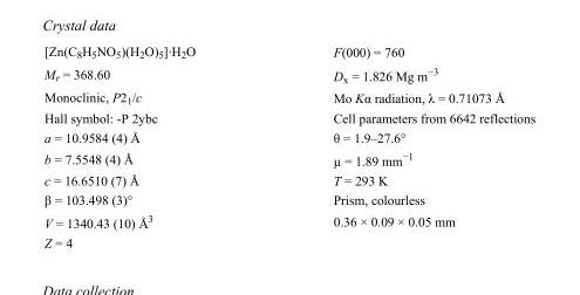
<table><tbody><tr><td>[Zn(C<sub>8</sub>H<sub>5</sub>NO<sub>5</sub>)(H<sub>2</sub>O)<sub>5</sub>]·H<sub>2</sub>O</td><td>F(000) = 760</td></tr><tr><td>M<sub>r</sub> = 368.60</td><td>D<sub>x</sub> = 1.826 Mg m<sup>−3</sup></td></tr><tr><td>Monoclinic, P2<sub>1</sub>/c</td><td>Mo Kα radiation, λ = 0.71073 Å</td></tr><tr><td>Hall symbol: -P 2ybc</td><td>Cell parameters from 6642 reflections</td></tr><tr><td>a = 10.9584 (4) Å</td><td>θ = 1.9–27.6°</td></tr><tr><td>b = 7.5548 (4) Å</td><td>µ = 1.89 mm<sup>−1</sup></td></tr><tr><td>c = 16.6510 (7) Å</td><td>T = 293 K</td></tr><tr><td>β = 103.498 (3)°</td><td>Prism, colourless</td></tr><tr><td>V = 1340.43 (10) Å<sup>3</sup></td><td>0.36 × 0.09 × 0.05 mm</td></tr><tr><td>Z = 4</td><td></td></tr></tbody></table>